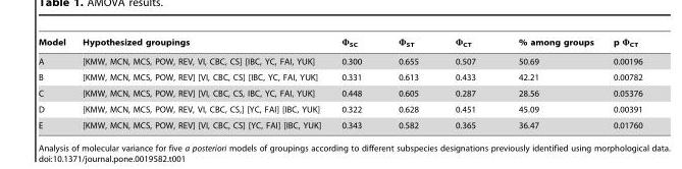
<table><thead><tr><td>Model</td><td>Hypothesized groupings</td><td>Φ<sub>SC</sub></td><td>Φ<sub>ST</sub></td><td>Φ<sub>CT</sub></td><td>% among groups</td><td>p Φ<sub>CT</sub></td></tr></thead><tbody><tr><td>A</td><td>[KMW, MCN, MCS, POW, REV, VI, CBC, CS] [IBC, YC, FAI, YUK]</td><td>0.300</td><td>0.655</td><td>0.507</td><td>50.69</td><td>0.00196</td></tr><tr><td>B</td><td>[KMW, MCN, MCS, POW, REV] [VI, CBC, CS] [IBC, YC, FAI, YUK]</td><td>0.331</td><td>0.613</td><td>0.433</td><td>42.21</td><td>0.00782</td></tr><tr><td>C</td><td>[KMW, MCN, MCS, POW, REV] [VI, CBC, CS, IBC, YC, FAI, YUK]</td><td>0.448</td><td>0.605</td><td>0.287</td><td>28.56</td><td>0.05376</td></tr><tr><td>D</td><td>[KMW, MCN, MCS, POW, REV, VI, CBC, CS,] [YC, FAI] [IBC, YUK]</td><td>0.322</td><td>0.628</td><td>0.451</td><td>45.09</td><td>0.00391</td></tr><tr><td>E</td><td>[KMW, MCN, MCS, POW, REV] [VI, CBC, CS] [YC, FAI] [IBC, YUK]</td><td>0.343</td><td>0.582</td><td>0.365</td><td>36.47</td><td>0.01760</td></tr></tbody></table>